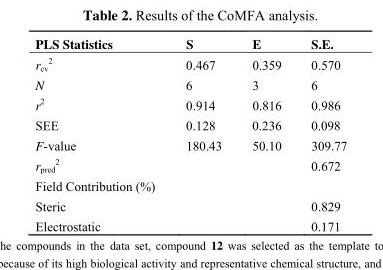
<table><thead><tr><td>PLS Statistics</td><td>S</td><td>E</td><td>S.E.</td></tr></thead><tbody><tr><td>r<sub>cv</sub> <sup>2</sup></td><td>0.467</td><td>0.359</td><td>0.570</td></tr><tr><td>N</td><td>6</td><td>3</td><td>6</td></tr><tr><td>r<sup>2</sup></td><td>0.914</td><td>0.816</td><td>0.986</td></tr><tr><td>SEE</td><td>0.128</td><td>0.236</td><td>0.098</td></tr><tr><td>F-value</td><td>180.43</td><td>50.10</td><td>309.77</td></tr><tr><td>r<sub>pred</sub> <sup>2</sup></td><td></td><td></td><td>0.672</td></tr><tr><td colspan="4">Field Contribution (%)</td></tr><tr><td>Steric</td><td></td><td></td><td>0.829</td></tr><tr><td>Electrostatic</td><td></td><td></td><td>0.171</td></tr></tbody></table>